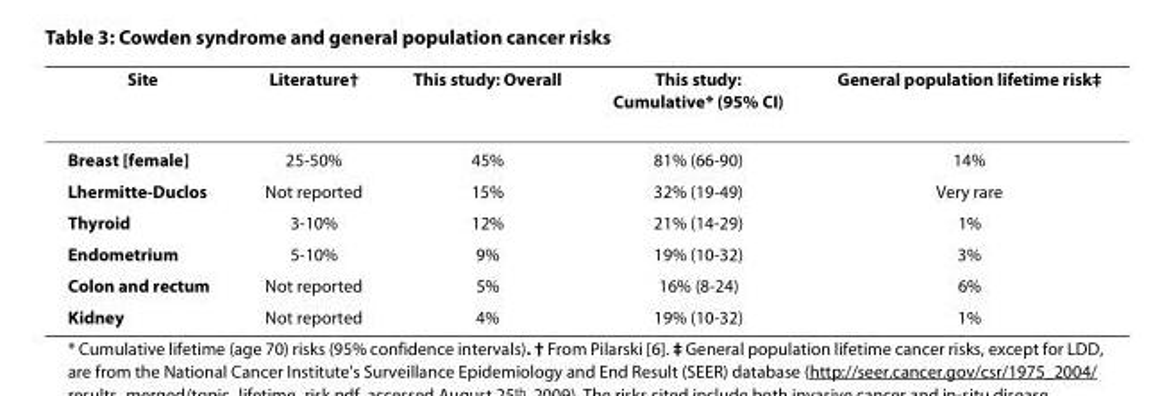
<table><thead><tr><td>Site</td><td>Literature†</td><td>This study: Overall</td><td>This study: Cumulative* (95% CI)</td><td>General population lifetime risk‡</td></tr></thead><tbody><tr><td>Breast [female]</td><td>25-50%</td><td>45%</td><td>81% (66-90)</td><td>14%</td></tr><tr><td>Lhermitte-Duclos</td><td>Not reported</td><td>15%</td><td>32% (19-49)</td><td>Very rare</td></tr><tr><td>Thyroid</td><td>3-10%</td><td>12%</td><td>21% (14-29)</td><td>1%</td></tr><tr><td>Endometrium</td><td>5-10%</td><td>9%</td><td>19% (10-32)</td><td>3%</td></tr><tr><td>Colon and rectum</td><td>Not reported</td><td>5%</td><td>16% (8-24)</td><td>6%</td></tr><tr><td>Kidney</td><td>Not reported</td><td>4%</td><td>19% (10-32)</td><td>1%</td></tr></tbody></table>